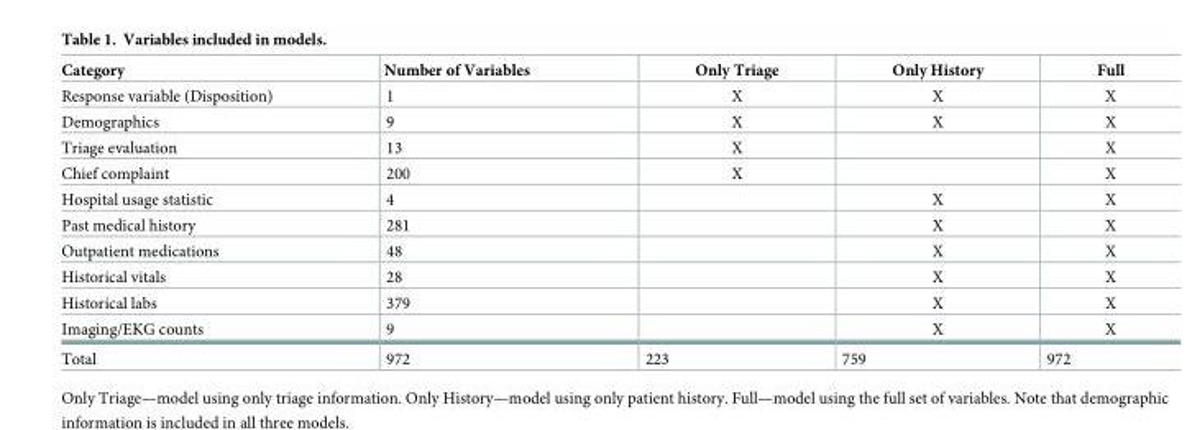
<table><thead><tr><td>Category</td><td>Number of Variables</td><td>Only Triage</td><td>Only History</td><td>Full</td></tr></thead><tbody><tr><td>Response variable (Disposition)</td><td>1</td><td>X</td><td>X</td><td>X</td></tr><tr><td>Demographics</td><td>9</td><td>X</td><td>X</td><td>X</td></tr><tr><td>Triage evaluation</td><td>13</td><td>X</td><td></td><td>X</td></tr><tr><td>Chief complaint</td><td>200</td><td>X</td><td></td><td>X</td></tr><tr><td>Hospital usage statistic</td><td>4</td><td></td><td>X</td><td>X</td></tr><tr><td>Past medical history</td><td>281</td><td></td><td>X</td><td>X</td></tr><tr><td>Outpatient medications</td><td>48</td><td></td><td>X</td><td>X</td></tr><tr><td>Historical vitals</td><td>28</td><td></td><td>X</td><td>X</td></tr><tr><td>Historical labs</td><td>379</td><td></td><td>X</td><td>X</td></tr><tr><td>Imaging/EKG counts</td><td>9</td><td></td><td>X</td><td>X</td></tr><tr><td>Total</td><td>972</td><td>223</td><td>759</td><td>972</td></tr></tbody></table>